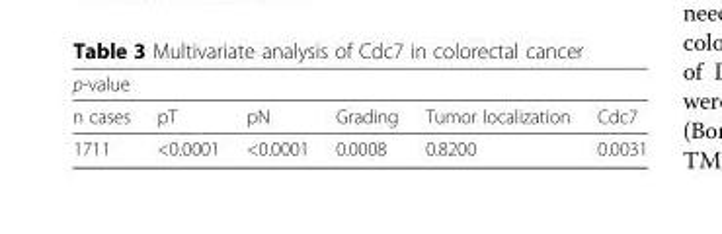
<table><thead><tr><td colspan="6">p-value</td></tr><tr><td>n cases</td><td>pT</td><td>pN</td><td>Grading</td><td>Tumor localization</td><td>Cdc7</td></tr></thead><tbody><tr><td>1711</td><td>&lt;0.0001</td><td>&lt;0.0001</td><td>0.0008</td><td>0.8200</td><td>0.0031</td></tr></tbody></table>